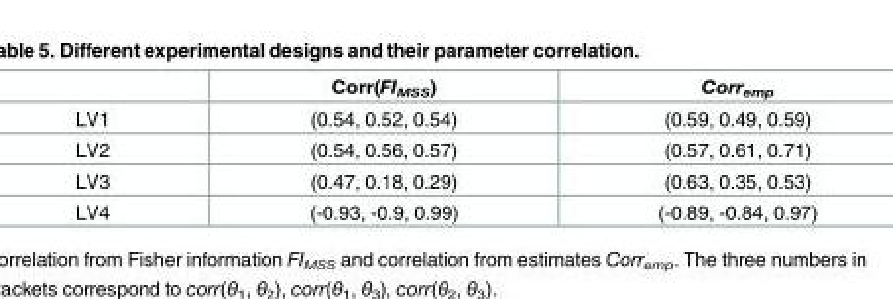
<table><thead><tr><td></td><td>Corr(FI<sub>MSS</sub>)</td><td>Corr<sub>emp</sub></td></tr></thead><tbody><tr><td>LV1</td><td>(0.54, 0.52, 0.54)</td><td>(0.59, 0.49, 0.59)</td></tr><tr><td>LV2</td><td>(0.54, 0.56, 0.57)</td><td>(0.57, 0.61, 0.71)</td></tr><tr><td>LV3</td><td>(0.47, 0.18, 0.29)</td><td>(0.63, 0.35, 0.53)</td></tr><tr><td>LV4</td><td>(-0.93, -0.9, 0.99)</td><td>(-0.89, -0.84, 0.97)</td></tr></tbody></table>